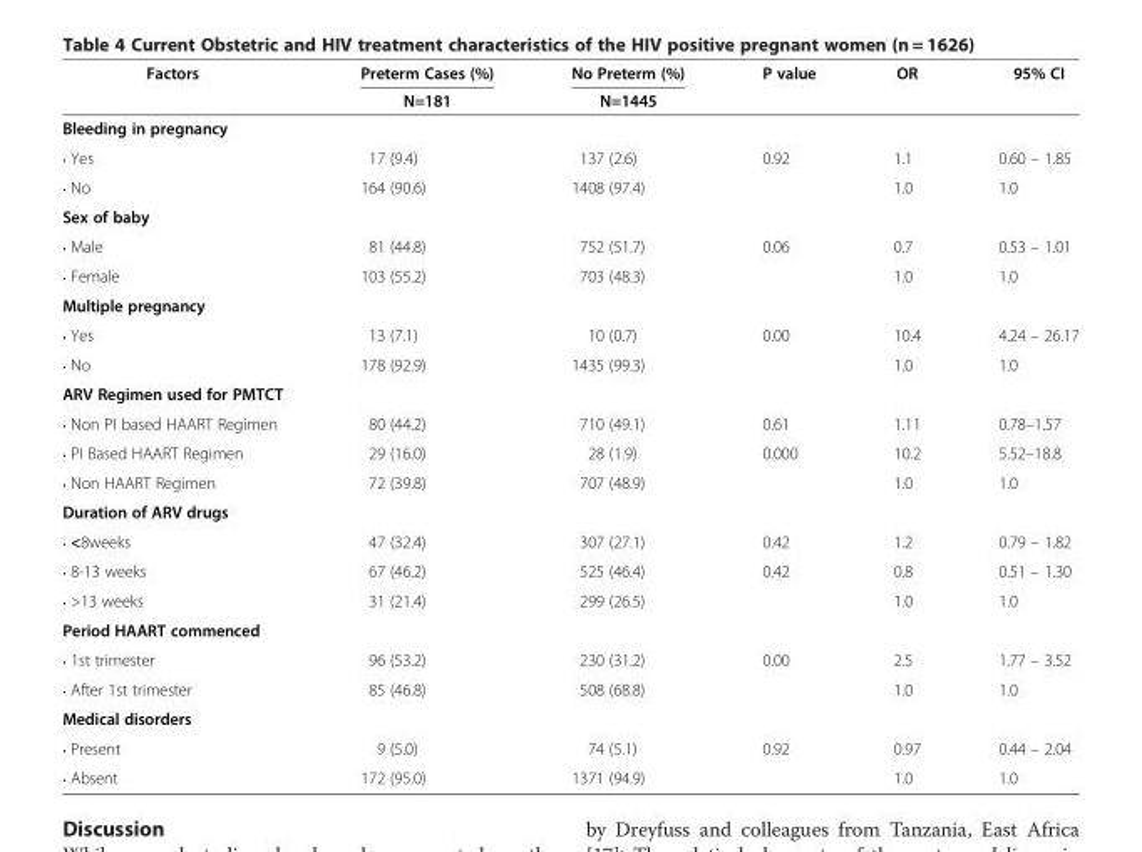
<table><thead><tr><td rowspan="2">Factors</td><td rowspan="2">Preterm Cases (%) N=181</td><td rowspan="2">No Preterm (%) N=1445</td><td rowspan="2">P value</td><td rowspan="2">OR</td><td rowspan="2">95% CI</td></tr><tr></tr></thead><tbody><tr><td colspan="6">Bleeding in pregnancy</td></tr><tr><td>• Yes</td><td>17 (9.4)</td><td>137 (2.6)</td><td>0.92</td><td>1.1</td><td>0.60 – 1.85</td></tr><tr><td>• No</td><td>164 (90.6)</td><td>1408 (97.4)</td><td></td><td>1.0</td><td>1.0</td></tr><tr><td colspan="6">Sex of baby</td></tr><tr><td>• Male</td><td>81 (44.8)</td><td>752 (51.7)</td><td>0.06</td><td>0.7</td><td>0.53 – 1.01</td></tr><tr><td>• Female</td><td>103 (55.2)</td><td>703 (48.3)</td><td></td><td>1.0</td><td>1.0</td></tr><tr><td colspan="6">Multiple pregnancy</td></tr><tr><td>• Yes</td><td>13 (7.1)</td><td>10 (0.7)</td><td>0.00</td><td>10.4</td><td>4.24 – 26.17</td></tr><tr><td>• No</td><td>178 (92.9)</td><td>1435 (99.3)</td><td></td><td>1.0</td><td>1.0</td></tr><tr><td colspan="6">ARV Regimen used for PMTCT</td></tr><tr><td>• Non PI based HAART Regimen</td><td>80 (44.2)</td><td>710 (49.1)</td><td>0.61</td><td>1.11</td><td>0.78–1.57</td></tr><tr><td>• PI Based HAART Regimen</td><td>29 (16.0)</td><td>28 (1.9)</td><td>0.000</td><td>10.2</td><td>5.52–18.8</td></tr><tr><td>• Non HAART Regimen</td><td>72 (39.8)</td><td>707 (48.9)</td><td></td><td>1.0</td><td>1.0</td></tr><tr><td colspan="6">Duration of ARV drugs</td></tr><tr><td>• &lt;8weeks</td><td>47 (32.4)</td><td>307 (27.1)</td><td>0.42</td><td>1.2</td><td>0.79 – 1.82</td></tr><tr><td>• 8-13 weeks</td><td>67 (46.2)</td><td>525 (46.4)</td><td>0.42</td><td>0.8</td><td>0.51 – 1.30</td></tr><tr><td>• &gt;13 weeks</td><td>31 (21.4)</td><td>299 (26.5)</td><td></td><td>1.0</td><td>1.0</td></tr><tr><td colspan="6">Period HAART commenced</td></tr><tr><td>• 1st trimester</td><td>96 (53.2)</td><td>230 (31.2)</td><td>0.00</td><td>2.5</td><td>1.77 – 3.52</td></tr><tr><td>• After 1st trimester</td><td>85 (46.8)</td><td>508 (68.8)</td><td></td><td>1.0</td><td>1.0</td></tr><tr><td colspan="6">Medical disorders</td></tr><tr><td>• Present</td><td>9 (5.0)</td><td>74 (5.1)</td><td>0.92</td><td>0.97</td><td>0.44 – 2.04</td></tr><tr><td>• Absent</td><td>172 (95.0)</td><td>1371 (94.9)</td><td></td><td>1.0</td><td>1.0</td></tr></tbody></table>